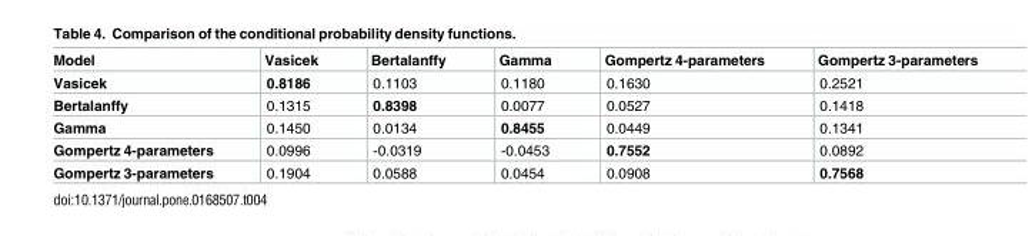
<table><thead><tr><td>Model</td><td>Vasicek</td><td>Bertalanffy</td><td>Gamma</td><td>Gompertz 4-parameters</td><td>Gompertz 3-parameters</td></tr></thead><tbody><tr><td>Vasicek</td><td>0.8186</td><td>0.1103</td><td>0.1180</td><td>0.1630</td><td>0.2521</td></tr><tr><td>Bertalanffy</td><td>0.1315</td><td>0.8398</td><td>0.0077</td><td>0.0527</td><td>0.1418</td></tr><tr><td>Gamma</td><td>0.1450</td><td>0.0134</td><td>0.8455</td><td>0.0449</td><td>0.1341</td></tr><tr><td>Gompertz 4-parameters</td><td>0.0996</td><td>-0.0319</td><td>-0.0453</td><td>0.7552</td><td>0.0892</td></tr><tr><td>Gompertz 3-parameters</td><td>0.1904</td><td>0.0588</td><td>0.0454</td><td>0.0908</td><td>0.7568</td></tr></tbody></table>